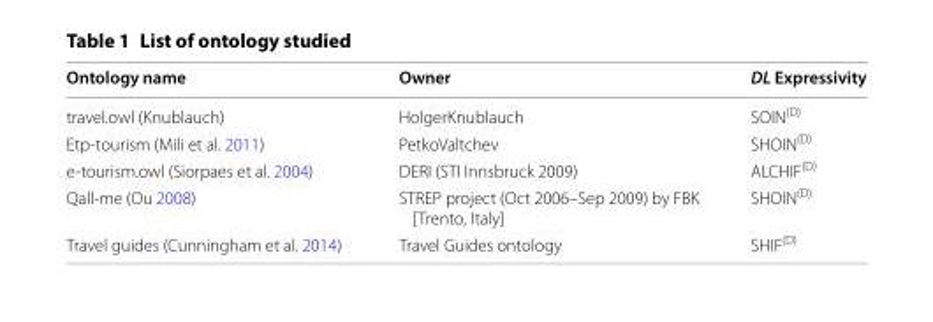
<table><thead><tr><td>Ontology name</td><td>Owner</td><td>DL Expressivity</td></tr></thead><tbody><tr><td>travel.owl (Knublauch)</td><td>HolgerKnublauch</td><td>SOIN<sup>(D)</sup></td></tr><tr><td>Etp-tourism (Mili et al. 2011)</td><td>PetkoValtchev</td><td>SHOIN<sup>(D)</sup></td></tr><tr><td>e-tourism.owl (Siorpaes et al. 2004)</td><td>DERI (STI Innsbruck 2009)</td><td>ALCHIF<sup>(D)</sup></td></tr><tr><td>Qall-me (Ou 2008)</td><td>STREP project (Oct 2006–Sep 2009) by FBK [Trento, Italy]</td><td>SHOIN<sup>(D)</sup></td></tr><tr><td>Travel guides (Cunningham et al. 2014)</td><td>Travel Guides ontology</td><td>SHIF<sup>(D)</sup></td></tr></tbody></table>